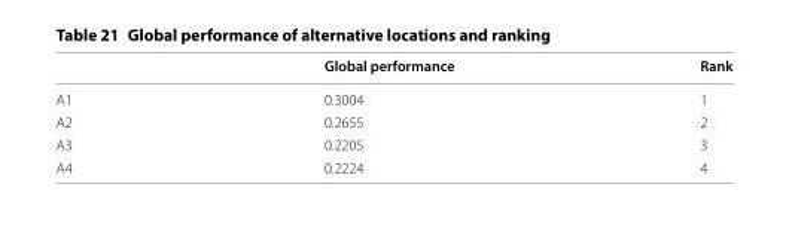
<table><thead><tr><td></td><td>Global performance</td><td>Rank</td></tr></thead><tbody><tr><td>A1</td><td>0.3004</td><td>1</td></tr><tr><td>A2</td><td>0.2655</td><td>2</td></tr><tr><td>A3</td><td>0.2205</td><td>3</td></tr><tr><td>A4</td><td>0.2224</td><td>4</td></tr></tbody></table>